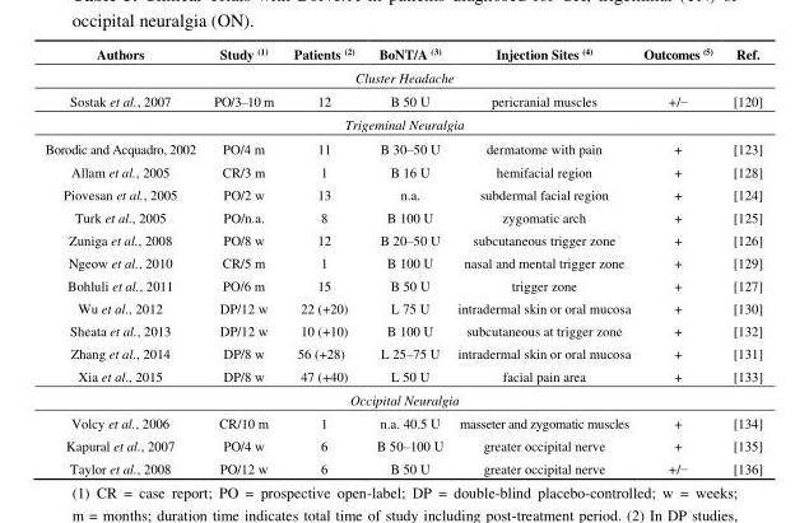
<table><thead><tr><td>Authors</td><td>Study <sup>(1)</sup></td><td>Patients <sup>(2)</sup></td><td>BoNT/A <sup>(3)</sup></td><td>Injection Sites <sup>(4)</sup></td><td>Outcomes <sup>(5)</sup></td><td>Ref.</td></tr></thead><tbody><tr><td colspan="7">Cluster Headache</td></tr><tr><td>Sostak et al., 2007</td><td>PO/3–10 m</td><td>12</td><td>B 50 U</td><td>pericranial muscles</td><td>+/−</td><td>[120]</td></tr><tr><td colspan="7">Trigeminal Neuralgia</td></tr><tr><td>Borodic and Acquadro, 2002</td><td>PO/4 m</td><td>11</td><td>B 30–50 U</td><td>dermatome with pain</td><td>+</td><td>[123]</td></tr><tr><td>Allam et al., 2005</td><td>CR/3 m</td><td>1</td><td>B 16 U</td><td>hemifacial region</td><td>+</td><td>[128]</td></tr><tr><td>Piovesan et al., 2005</td><td>PO/2 w</td><td>13</td><td>n.a.</td><td>subdermal facial region</td><td>+</td><td>[124]</td></tr><tr><td>Turk et al., 2005</td><td>PO/n.a.</td><td>8</td><td>B 100 U</td><td>zygomatic arch</td><td>+</td><td>[125]</td></tr><tr><td>Zuniga et al., 2008</td><td>PO/8 w</td><td>12</td><td>B 20–50 U</td><td>subcutaneous trigger zone</td><td>+</td><td>[126]</td></tr><tr><td>Ngeow et al., 2010</td><td>CR/5 m</td><td>1</td><td>B 100 U</td><td>nasal and mental trigger zone</td><td>+</td><td>[129]</td></tr><tr><td>Bohluli et al., 2011</td><td>PO/6 m</td><td>15</td><td>B 50 U</td><td>trigger zone</td><td>+</td><td>[127]</td></tr><tr><td>Wu et al., 2012</td><td>DP/12 w</td><td>22 (+20)</td><td>L 75 U</td><td>intradermal skin or oral mucosa</td><td>+</td><td>[130]</td></tr><tr><td>Sheata et al., 2013</td><td>DP/12 w</td><td>10 (+10)</td><td>B 100 U</td><td>subcutaneous at trigger zone</td><td>+</td><td>[132]</td></tr><tr><td>Zhang et al., 2014</td><td>DP/8 w</td><td>56 (+28)</td><td>L 25–75 U</td><td>intradermal skin or oral mucosa</td><td>+</td><td>[131]</td></tr><tr><td>Xia et al., 2015</td><td>DP/8 w</td><td>47 (+40)</td><td>L 50 U</td><td>facial pain area</td><td>+</td><td>[133]</td></tr><tr><td colspan="7">Occipital Neuralgia</td></tr><tr><td>Volcy et al., 2006</td><td>CR/10 m</td><td>1</td><td>n.a. 40.5 U</td><td>masseter and zygomatic muscles</td><td>+</td><td>[134]</td></tr><tr><td>Kapural et al., 2007</td><td>PO/4 w</td><td>6</td><td>B 50–100 U</td><td>greater occipital nerve</td><td>+</td><td>[135]</td></tr><tr><td>Taylor et al., 2008</td><td>PO/12 w</td><td>6</td><td>B 50 U</td><td>greater occipital nerve</td><td>+/−</td><td>[136]</td></tr></tbody></table>